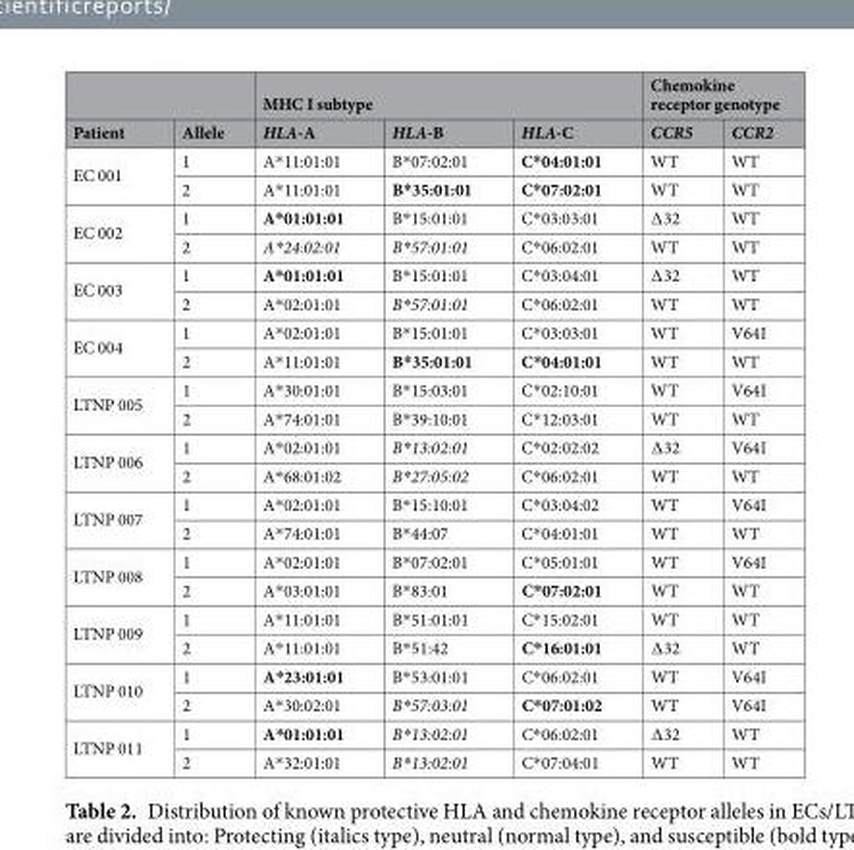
<table><thead><tr><td rowspan="2">Patient</td><td rowspan="2">Allele</td><td colspan="3">MHC I subtype</td><td colspan="2">Chemokine receptor genotype</td></tr><tr><td>HLA-A</td><td>HLA-B</td><td>HLA-C</td><td>CCR5</td><td>CCR2</td></tr></thead><tbody><tr><td rowspan="2">EC 001</td><td>1</td><td>A*11:01:01</td><td>B*07:02:01</td><td>C*04:01:01</td><td>WT</td><td>WT</td></tr><tr><td>2</td><td>A*11:01:01</td><td>B*35:01:01</td><td>C*07:02:01</td><td>WT</td><td>WT</td></tr><tr><td rowspan="2">EC 002</td><td>1</td><td>A*01:01:01</td><td>B*15:01:01</td><td>C*03:03:01</td><td>∆32</td><td>WT</td></tr><tr><td>2</td><td>A*24:02:01</td><td>B*57:01:01</td><td>C*06:02:01</td><td>WT</td><td>WT</td></tr><tr><td rowspan="2">EC 003</td><td>1</td><td>A*01:01:01</td><td>B*15:01:01</td><td>C*03:04:01</td><td>∆32</td><td>WT</td></tr><tr><td>2</td><td>A*02:01:01</td><td>B*57:01:01</td><td>C*06:02:01</td><td>WT</td><td>WT</td></tr><tr><td rowspan="2">EC 004</td><td>1</td><td>A*02:01:01</td><td>B*15:01:01</td><td>C*03:03:01</td><td>WT</td><td>V64I</td></tr><tr><td>2</td><td>A*11:01:01</td><td>B*35:01:01</td><td>C*04:01:01</td><td>WT</td><td>WT</td></tr><tr><td rowspan="2">LTNP 005</td><td>1</td><td>A*30:01:01</td><td>B*15:03:01</td><td>C*02:10:01</td><td>WT</td><td>V64I</td></tr><tr><td>2</td><td>A*74:01:01</td><td>B*39:10:01</td><td>C*12:03:01</td><td>WT</td><td>WT</td></tr><tr><td rowspan="2">LTNP 006</td><td>1</td><td>A*02:01:01</td><td>B*13:02:01</td><td>C*02:02:02</td><td>∆32</td><td>V64I</td></tr><tr><td>2</td><td>A*68:01:02</td><td>B*27:05:02</td><td>C*06:02:01</td><td>WT</td><td>WT</td></tr><tr><td rowspan="2">LTNP 007</td><td>1</td><td>A*02:01:01</td><td>B*15:10:01</td><td>C*03:04:02</td><td>WT</td><td>V64I</td></tr><tr><td>2</td><td>A*74:01:01</td><td>B*44:07</td><td>C*04:01:01</td><td>WT</td><td>WT</td></tr><tr><td rowspan="2">LTNP 008</td><td>1</td><td>A*02:01:01</td><td>B*07:02:01</td><td>C*05:01:01</td><td>WT</td><td>V64I</td></tr><tr><td>2</td><td>A*03:01:01</td><td>B*83:01</td><td>C*07:02:01</td><td>WT</td><td>WT</td></tr><tr><td rowspan="2">LTNP 009</td><td>1</td><td>A*11:01:01</td><td>B*51:01:01</td><td>C*15:02:01</td><td>WT</td><td>WT</td></tr><tr><td>2</td><td>A*11:01:01</td><td>B*51:42</td><td>C*16:01:01</td><td>∆32</td><td>WT</td></tr><tr><td rowspan="2">LTNP 010</td><td>1</td><td>A*23:01:01</td><td>B*53:01:01</td><td>C*06:02:01</td><td>WT</td><td>V64I</td></tr><tr><td>2</td><td>A*30:02:01</td><td>B*57:03:01</td><td>C*07:01:02</td><td>WT</td><td>V64I</td></tr><tr><td rowspan="2">LTNP 011</td><td>1</td><td>A*01:01:01</td><td>B*13:02:01</td><td>C*06:02:01</td><td>∆32</td><td>WT</td></tr><tr><td>2</td><td>A*32:01:01</td><td>B*13:02:01</td><td>C*07:04:01</td><td>WT</td><td>WT</td></tr></tbody></table>